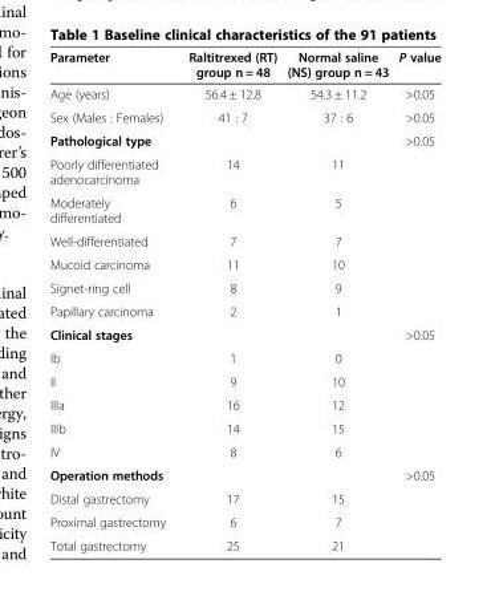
<table><thead><tr><td>Parameter</td><td>Raltitrexed (RT) group n = 48</td><td>Normal saline (NS) group n = 43</td><td>P value</td></tr></thead><tbody><tr><td>Age (years)</td><td>56.4 ± 12.8</td><td>54.3 ± 11.2</td><td>&gt;0.05</td></tr><tr><td>Sex (Males : Females)</td><td>41 : 7</td><td>37 : 6</td><td>&gt;0.05</td></tr><tr><td>Pathological type</td><td></td><td></td><td>&gt;0.05</td></tr><tr><td>Poorly differentiated adenocarcinoma</td><td>14</td><td>11</td><td></td></tr><tr><td>Moderately differentiated</td><td>6</td><td>5</td><td></td></tr><tr><td>Well-differentiated</td><td>7</td><td>7</td><td></td></tr><tr><td>Mucoid carcinoma</td><td>11</td><td>10</td><td></td></tr><tr><td>Signet-ring cell</td><td>8</td><td>9</td><td></td></tr><tr><td>Papillary carcinoma</td><td>2</td><td>1</td><td></td></tr><tr><td>Clinical stages</td><td></td><td></td><td>&gt;0.05</td></tr><tr><td>Ib</td><td>1</td><td>0</td><td></td></tr><tr><td>II</td><td>9</td><td>10</td><td></td></tr><tr><td>IIIa</td><td>16</td><td>12</td><td></td></tr><tr><td>IIIb</td><td>14</td><td>15</td><td></td></tr><tr><td>IV</td><td>8</td><td>6</td><td></td></tr><tr><td>Operation methods</td><td></td><td></td><td>&gt;0.05</td></tr><tr><td>Distal gastrectomy</td><td>17</td><td>15</td><td></td></tr><tr><td>Proximal gastrectomy</td><td>6</td><td>7</td><td></td></tr><tr><td>Total gastrectomy</td><td>25</td><td>21</td><td></td></tr></tbody></table>